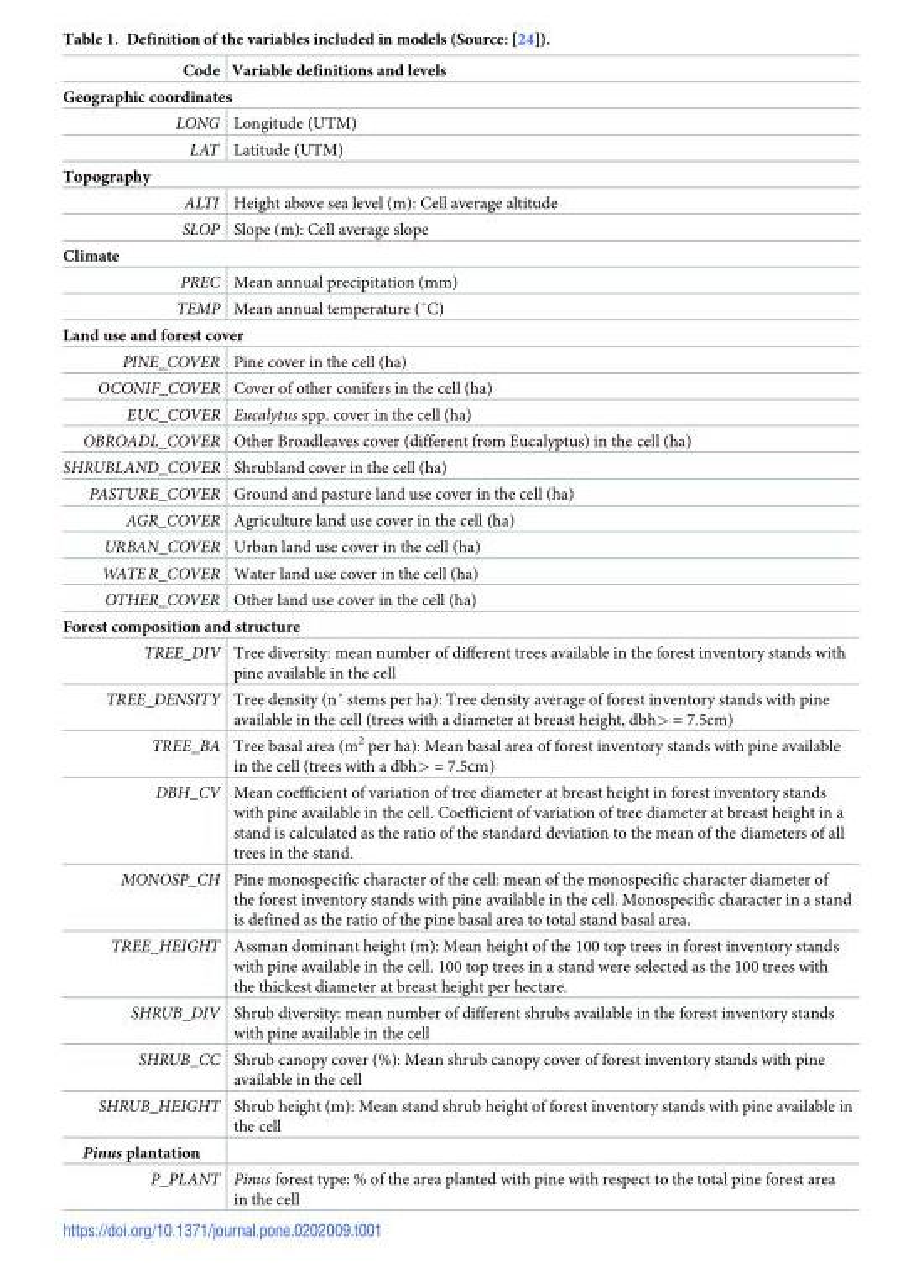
<table><thead><tr><td>Code</td><td>Variable definitions and levels</td></tr></thead><tbody><tr><td colspan="2">Geographic coordinates</td></tr><tr><td>LONG</td><td>Longitude (UTM)</td></tr><tr><td>LAT</td><td>Latitude (UTM)</td></tr><tr><td colspan="2">Topography</td></tr><tr><td>ALTI</td><td>Height above sea level (m): Cell average altitude</td></tr><tr><td>SLOP</td><td>Slope (m): Cell average slope</td></tr><tr><td colspan="2">Climate</td></tr><tr><td>PREC</td><td>Mean annual precipitation (mm)</td></tr><tr><td>TEMP</td><td>Mean annual temperature (˚C)</td></tr><tr><td colspan="2">Land use and forest cover</td></tr><tr><td>PINE_COVER</td><td>Pine cover in the cell (ha)</td></tr><tr><td>OCONIF_COVER</td><td>Cover of other conifers in the cell (ha)</td></tr><tr><td>EUC_COVER</td><td>Eucalytus spp. cover in the cell (ha)</td></tr><tr><td>OBROADL_COVER</td><td>Other Broadleaves cover (different from Eucalyptus) in the cell (ha)</td></tr><tr><td>SHRUBLAND_COVER</td><td>Shrubland cover in the cell (ha)</td></tr><tr><td>PASTURE_COVER</td><td>Ground and pasture land use cover in the cell (ha)</td></tr><tr><td>AGR_COVER</td><td>Agriculture land use cover in the cell (ha)</td></tr><tr><td>URBAN_COVER</td><td>Urban land use cover in the cell (ha)</td></tr><tr><td>WATER_COVER</td><td>Water land use cover in the cell (ha)</td></tr><tr><td>OTHER_COVER</td><td>Other land use cover in the cell (ha)</td></tr><tr><td colspan="2">Forest composition and structure</td></tr><tr><td>TREE_DIV</td><td>Tree diversity: mean number of different trees available in the forest inventory stands with pine available in the cell</td></tr><tr><td>TREE_DENSITY</td><td>Tree density (n˚ stems per ha): Tree density average of forest inventory stands with pine available in the cell (trees with a diameter at breast height, dbh&gt; = 7.5cm)</td></tr><tr><td>TREE_BA</td><td>Tree basal area (m<sup>2</sup> per ha): Mean basal area of forest inventory stands with pine available in the cell (trees with a dbh&gt; = 7.5cm)</td></tr><tr><td>DBH_CV</td><td>Mean coefficient of variation of tree diameter at breast height in forest inventory stands with pine available in the cell. Coefficient of variation of tree diameter at breast height in a stand is calculated as the ratio of the standard deviation to the mean of the diameters of all trees in the stand.</td></tr><tr><td>MONOSP_CH</td><td>Pine monospecific character of the cell: mean of the monospecific character diameter of the forest inventory stands with pine available in the cell. Monospecific character in a stand is defined as the ratio of the pine basal area to total stand basal area.</td></tr><tr><td>TREE_HEIGHT</td><td>Assman dominant height (m): Mean height of the 100 top trees in forest inventory stands with pine available in the cell. 100 top trees in a stand were selected as the 100 trees with the thickest diameter at breast height per hectare.</td></tr><tr><td>SHRUB_DIV</td><td>Shrub diversity: mean number of different shrubs available in the forest inventory stands with pine available in the cell</td></tr><tr><td>SHRUB_CC</td><td>Shrub canopy cover (%): Mean shrub canopy cover of forest inventory stands with pine available in the cell</td></tr><tr><td>SHRUB_HEIGHT</td><td>Shrub height (m): Mean stand shrub height of forest inventory stands with pine available in the cell</td></tr><tr><td colspan="2">Pinus plantation</td></tr><tr><td>P_PLANT</td><td>Pinus forest type: % of the area planted with pine with respect to the total pine forest area in the cell</td></tr></tbody></table>